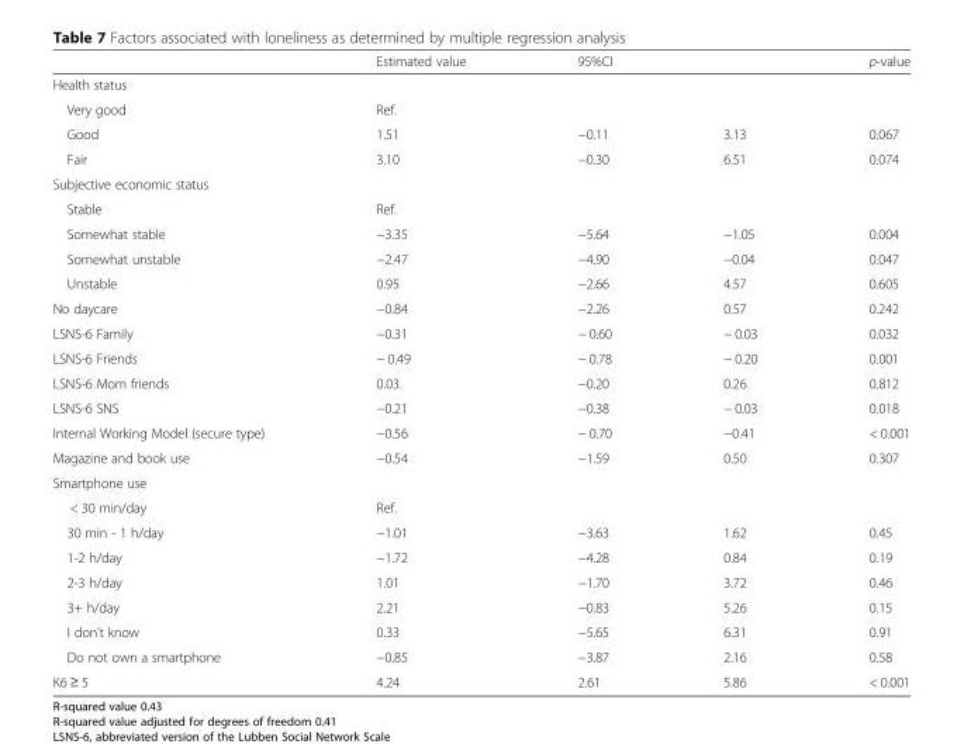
<table><thead><tr><td></td><td>Estimated value</td><td colspan="2">95%CI</td><td>p-value</td></tr><tr><td colspan="5">Health status</td></tr><tr><td>Very good</td><td>Ref.</td><td></td><td></td><td></td></tr></thead><tbody><tr><td>Good</td><td>1.51</td><td>−0.11</td><td>3.13</td><td>0.067</td></tr><tr><td>Fair</td><td>3.10</td><td>−0.30</td><td>6.51</td><td>0.074</td></tr><tr><td colspan="5">Subjective economic status</td></tr><tr><td>Stable</td><td>Ref.</td><td></td><td></td><td></td></tr><tr><td>Somewhat stable</td><td>−3.35</td><td>−5.64</td><td>−1.05</td><td>0.004</td></tr><tr><td>Somewhat unstable</td><td>−2.47</td><td>−4.90</td><td>−0.04</td><td>0.047</td></tr><tr><td>Unstable</td><td>0.95</td><td>−2.66</td><td>4.57</td><td>0.605</td></tr><tr><td>No daycare</td><td>−0.84</td><td>−2.26</td><td>0.57</td><td>0.242</td></tr><tr><td>LSNS-6 Family</td><td>−0.31</td><td>− 0.60</td><td>− 0.03</td><td>0.032</td></tr><tr><td>LSNS-6 Friends</td><td>− 0.49</td><td>− 0.78</td><td>− 0.20</td><td>0.001</td></tr><tr><td>LSNS-6 Mom friends</td><td>0.03</td><td>−0.20</td><td>0.26</td><td>0.812</td></tr><tr><td>LSNS-6 SNS</td><td>−0.21</td><td>−0.38</td><td>− 0.03</td><td>0.018</td></tr><tr><td>Internal Working Model (secure type)</td><td>−0.56</td><td>− 0.70</td><td>−0.41</td><td>&lt; 0.001</td></tr><tr><td>Magazine and book use</td><td>−0.54</td><td>−1.59</td><td>0.50</td><td>0.307</td></tr><tr><td colspan="5">Smartphone use</td></tr><tr><td>&lt; 30 min/day</td><td>Ref.</td><td colspan="2"></td><td></td></tr><tr><td>30 min - 1 h/day</td><td>−1.01</td><td>−3.63</td><td>1.62</td><td>0.45</td></tr><tr><td>1-2 h/day</td><td>−1.72</td><td>−4.28</td><td>0.84</td><td>0.19</td></tr><tr><td>2-3 h/day</td><td>1.01</td><td>−1.70</td><td>3.72</td><td>0.46</td></tr><tr><td>3+ h/day</td><td>2.21</td><td>−0.83</td><td>5.26</td><td>0.15</td></tr><tr><td>I don’t know</td><td>0.33</td><td>−5.65</td><td>6.31</td><td>0.91</td></tr><tr><td>Do not own a smartphone</td><td>−0.85</td><td>−3.87</td><td>2.16</td><td>0.58</td></tr><tr><td>K6 ≥ 5</td><td>4.24</td><td>2.61</td><td>5.86</td><td>&lt; 0.001</td></tr></tbody></table>